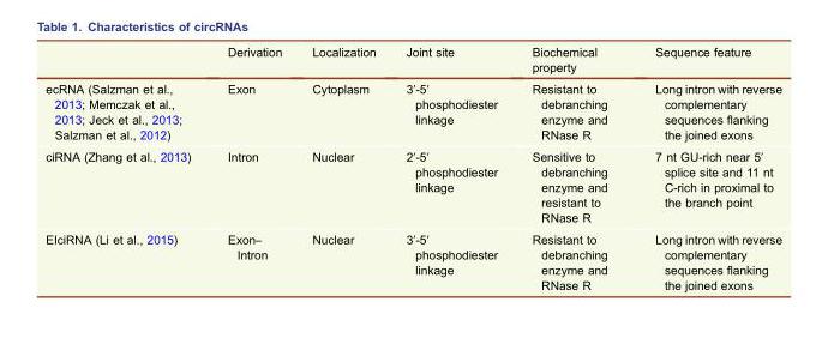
<table><thead><tr><td></td><td>Derivation</td><td>Localization</td><td>Joint site</td><td>Biochemical property</td><td>Sequence feature</td></tr></thead><tbody><tr><td>ecRNA (Salzman et al., 2013; Memczak et al., 2013; Jeck et al., 2013; Salzman et al., 2012)</td><td>Exon</td><td>Cytoplasm</td><td>3′-5′ phosphodiester linkage</td><td>Resistant to debranching enzyme and RNase R</td><td>Long intron with reverse complementary sequences flanking the joined exons</td></tr><tr><td>ciRNA (Zhang et al., 2013)</td><td>Intron</td><td>Nuclear</td><td>2′-5′ phosphodiester linkage</td><td>Sensitive to debranching enzyme and resistant to RNase R</td><td>7 nt GU-rich near 5′ splice site and 11 nt C-rich in proximal to the branch point</td></tr><tr><td>EIciRNA (Li et al., 2015)</td><td>Exon– Intron</td><td>Nuclear</td><td>3′-5′ phosphodiester linkage</td><td>Resistant to debranching enzyme and RNase R</td><td>Long intron with reverse complementary sequences flanking the joined exons</td></tr></tbody></table>